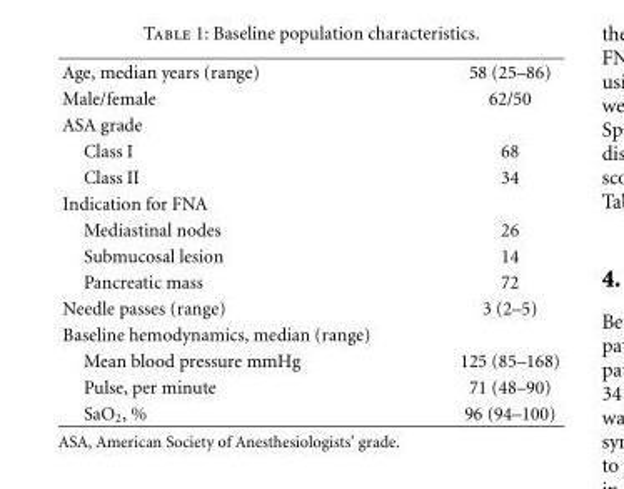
<table><tbody><tr><td>Age, median years (range)</td><td>58 (25–86)</td></tr><tr><td>Male/female</td><td>62/50</td></tr><tr><td colspan="2">ASA grade</td></tr><tr><td>Class I</td><td>68</td></tr><tr><td>Class II</td><td>34</td></tr><tr><td colspan="2">Indication for FNA</td></tr><tr><td>Mediastinal nodes</td><td>26</td></tr><tr><td>Submucosal lesion</td><td>14</td></tr><tr><td>Pancreatic mass</td><td>72</td></tr><tr><td>Needle passes (range)</td><td>3 (2–5)</td></tr><tr><td colspan="2">Baseline hemodynamics, median (range)</td></tr><tr><td>Mean blood pressure mmHg</td><td>125 (85–168)</td></tr><tr><td>Pulse, per minute</td><td>71 (48–90)</td></tr><tr><td>SaO<sub>2</sub>, %</td><td>96 (94–100)</td></tr></tbody></table>